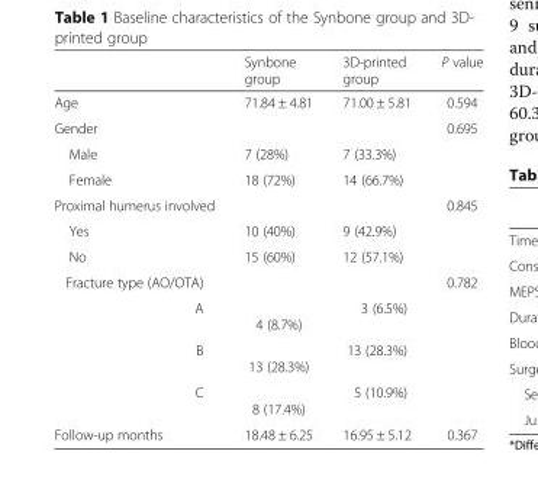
<table><thead><tr><td></td><td>Synbone group</td><td>3D-printed group</td><td>P value</td></tr></thead><tbody><tr><td>Age</td><td>71.84 ± 4.81</td><td>71.00 ± 5.81</td><td>0.594</td></tr><tr><td>Gender</td><td></td><td></td><td>0.695</td></tr><tr><td>Male</td><td>7 (28%)</td><td>7 (33.3%)</td><td></td></tr><tr><td>Female</td><td>18 (72%)</td><td>14 (66.7%)</td><td></td></tr><tr><td>Proximal humerus involved</td><td></td><td></td><td>0.845</td></tr><tr><td>Yes</td><td>10 (40%)</td><td>9 (42.9%)</td><td></td></tr><tr><td>No</td><td>15 (60%)</td><td>12 (57.1%)</td><td></td></tr><tr><td>Fracture type (AO/OTA)</td><td></td><td></td><td>0.782</td></tr><tr><td>A</td><td>4 (8.7%)</td><td>3 (6.5%)</td><td></td></tr><tr><td>B</td><td>13 (28.3%)</td><td>13 (28.3%)</td><td></td></tr><tr><td>C</td><td>8 (17.4%)</td><td>5 (10.9%)</td><td></td></tr><tr><td>Follow-up months</td><td>18.48 ± 6.25</td><td>16.95 ± 5.12</td><td>0.367</td></tr></tbody></table>